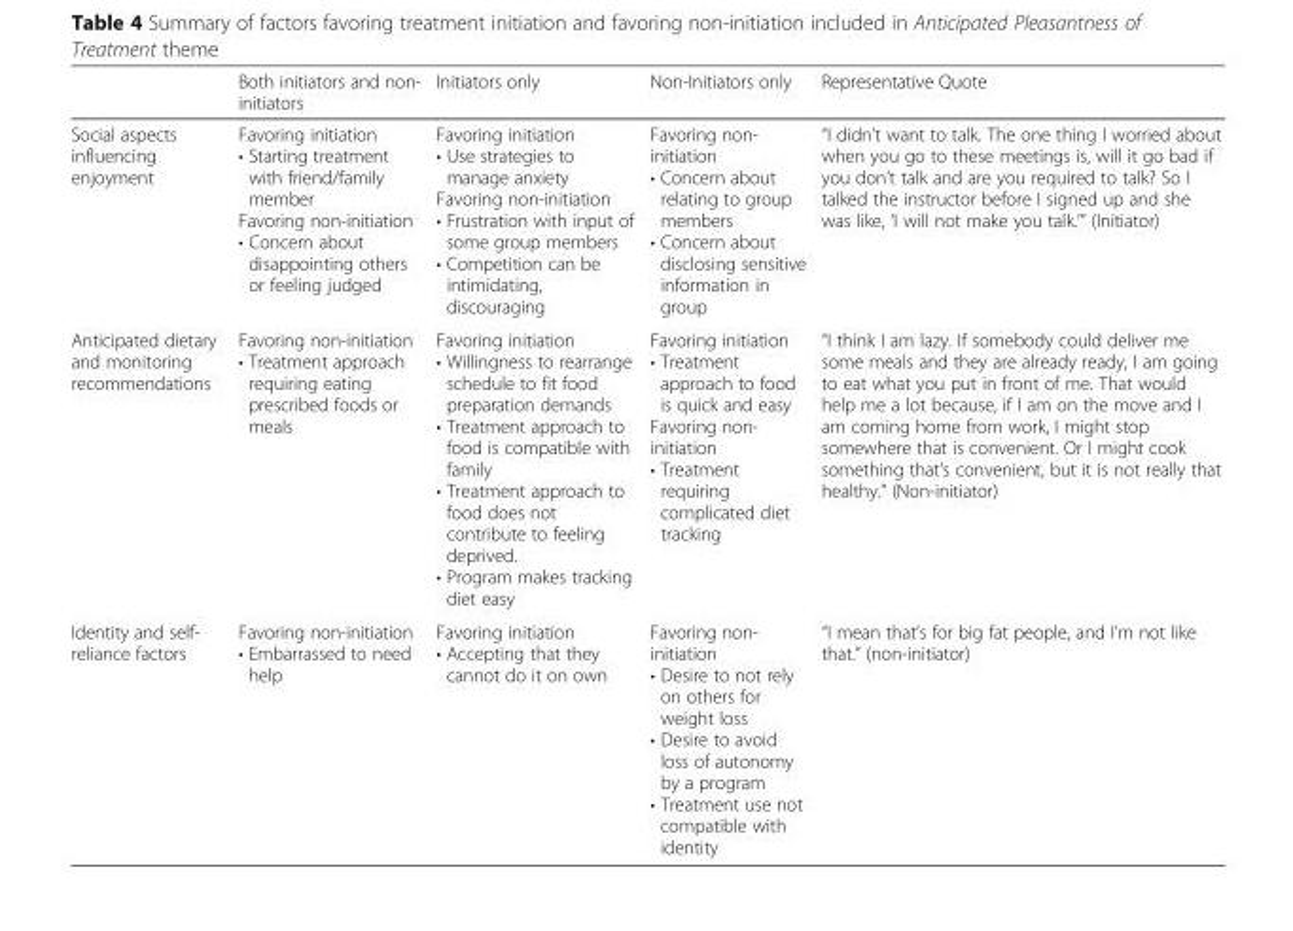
<table><thead><tr><td></td><td>Both initiators and non- initiators</td><td>Initiators only</td><td>Non-Initiators only</td><td>Representative Quote</td></tr></thead><tbody><tr><td>Social aspects influencing enjoyment</td><td>Favoring initiation • Starting treatment with friend/family member Favoring non-initiation • Concern about disappointing others or feeling judged</td><td>Favoring initiation • Use strategies to manage anxiety Favoring non-initiation • Frustration with input of some group members • Competition can be intimidating, discouraging</td><td>Favoring non- initiation • Concern about relating to group members • Concern about disclosing sensitive information in group</td><td>“I didn’t want to talk. The one thing I worried about when you go to these meetings is, will it go bad if you don’t talk and are you required to talk? So I talked the instructor before I signed up and she was like, ‘I will not make you talk.’” (Initiator)</td></tr><tr><td>Anticipated dietary and monitoring recommendations</td><td>Favoring non-initiation • Treatment approach requiring eating prescribed foods or meals</td><td>Favoring initiation • Willingness to rearrange schedule to fit food preparation demands • Treatment approach to food is compatible with family • Treatment approach to food does not contribute to feeling deprived. • Program makes tracking diet easy</td><td>Favoring initiation • Treatment approach to food is quick and easy Favoring non- initiation • Treatment requiring complicated diet tracking</td><td>“I think I am lazy. If somebody could deliver me some meals and they are already ready, I am going to eat what you put in front of me. That would help me a lot because, if I am on the move and I am coming home from work, I might stop somewhere that is convenient. Or I might cook something that’s convenient, but it is not really that healthy.” (Non-initiator)</td></tr><tr><td>Identity and self- reliance factors</td><td>Favoring non-initiation • Embarrassed to need help</td><td>Favoring initiation • Accepting that they cannot do it on own</td><td>Favoring non- initiation • Desire to not rely on others for weight loss • Desire to avoid loss of autonomy by a program • Treatment use not compatible with identity</td><td>“I mean that’s for big fat people, and I’m not like that.” (non-initiator)</td></tr></tbody></table>